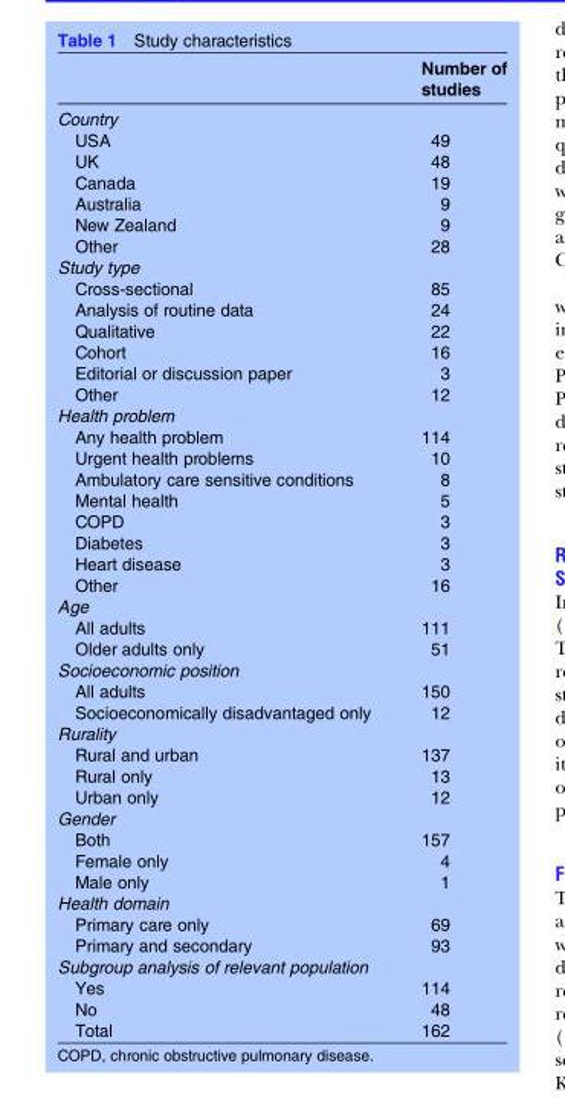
<table><thead><tr><td></td><td>Number of studies</td></tr></thead><tbody><tr><td colspan="2">Country</td></tr><tr><td>USA</td><td>49</td></tr><tr><td>UK</td><td>48</td></tr><tr><td>Canada</td><td>19</td></tr><tr><td>Australia</td><td>9</td></tr><tr><td>New Zealand</td><td>9</td></tr><tr><td>Other</td><td>28</td></tr><tr><td colspan="2">Study type</td></tr><tr><td>Cross-sectional</td><td>85</td></tr><tr><td>Analysis of routine data</td><td>24</td></tr><tr><td>Qualitative</td><td>22</td></tr><tr><td>Cohort</td><td>16</td></tr><tr><td>Editorial or discussion paper</td><td>3</td></tr><tr><td>Other</td><td>12</td></tr><tr><td colspan="2">Health problem</td></tr><tr><td>Any health problem</td><td>114</td></tr><tr><td>Urgent health problems</td><td>10</td></tr><tr><td>Ambulatory care sensitive conditions</td><td>8</td></tr><tr><td>Mental health</td><td>5</td></tr><tr><td>COPD</td><td>3</td></tr><tr><td>Diabetes</td><td>3</td></tr><tr><td>Heart disease</td><td>3</td></tr><tr><td>Other</td><td>16</td></tr><tr><td colspan="2">Age</td></tr><tr><td>All adults</td><td>111</td></tr><tr><td>Older adults only</td><td>51</td></tr><tr><td colspan="2">Socioeconomic position</td></tr><tr><td>All adults</td><td>150</td></tr><tr><td>Socioeconomically disadvantaged only</td><td>12</td></tr><tr><td colspan="2">Rurality</td></tr><tr><td>Rural and urban</td><td>137</td></tr><tr><td>Rural only</td><td>13</td></tr><tr><td>Urban only</td><td>12</td></tr><tr><td colspan="2">Gender</td></tr><tr><td>Both</td><td>157</td></tr><tr><td>Female only</td><td>4</td></tr><tr><td>Male only</td><td>1</td></tr><tr><td colspan="2">Health domain</td></tr><tr><td>Primary care only</td><td>69</td></tr><tr><td>Primary and secondary</td><td>93</td></tr><tr><td colspan="2">Subgroup analysis of relevant population</td></tr><tr><td>Yes</td><td>114</td></tr><tr><td>No</td><td>48</td></tr><tr><td>Total</td><td>162</td></tr></tbody></table>